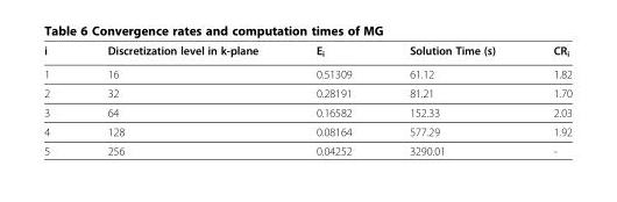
<table><thead><tr><td>i</td><td>Discretization level in k-plane</td><td>E<sub>i</sub></td><td>Solution Time (s)</td><td>CR<sub>i</sub></td></tr></thead><tbody><tr><td>1</td><td>16</td><td>0.51309</td><td>61.12</td><td>1.82</td></tr><tr><td>2</td><td>32</td><td>0.28191</td><td>81.21</td><td>1.70</td></tr><tr><td>3</td><td>64</td><td>0.16582</td><td>152.33</td><td>2.03</td></tr><tr><td>4</td><td>128</td><td>0.08164</td><td>577.29</td><td>1.92</td></tr><tr><td>5</td><td>256</td><td>0.04252</td><td>3290.01</td><td>-</td></tr></tbody></table>